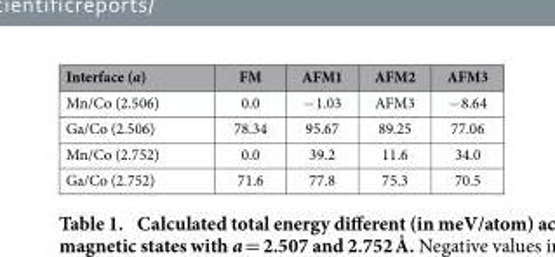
<table><thead><tr><td>Interface (a)</td><td>FM</td><td>AFM1</td><td>AFM2</td><td>AFM3</td></tr></thead><tbody><tr><td>Mn/Co (2.506)</td><td>0.0</td><td>− 1.03</td><td>AFM3</td><td>− 8.64</td></tr><tr><td>Ga/Co (2.506)</td><td>78.34</td><td>95.67</td><td>89.25</td><td>77.06</td></tr><tr><td>Mn/Co (2.752)</td><td>0.0</td><td>39.2</td><td>11.6</td><td>34.0</td></tr><tr><td>Ga/Co (2.752)</td><td>71.6</td><td>77.8</td><td>75.3</td><td>70.5</td></tr></tbody></table>